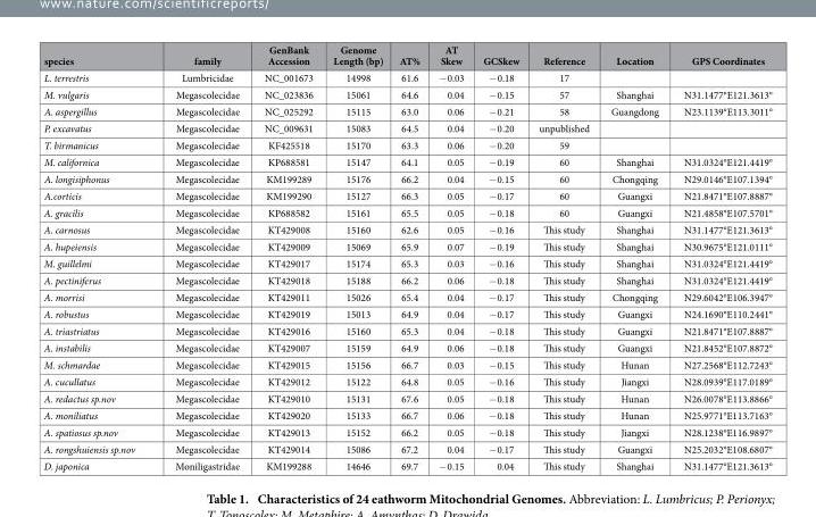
<table><thead><tr><td>species</td><td>family</td><td>GenBank Accession</td><td>Genome Length (bp)</td><td>AT%</td><td>AT Skew</td><td>GCSkew</td><td>Reference</td><td>Location</td><td>GPS Coordinates</td></tr></thead><tbody><tr><td>L. terrestris</td><td>Lumbricidae</td><td>NC_001673</td><td>14998</td><td>61.6</td><td>− 0.03</td><td>− 0.18</td><td>17</td><td></td><td></td></tr><tr><td>M. vulgaris</td><td>Megascolecidae</td><td>NC_023836</td><td>15061</td><td>64.6</td><td>0.04</td><td>− 0.15</td><td>57</td><td>Shanghai</td><td>N31.1477°E121.3613°</td></tr><tr><td>A. aspergillus</td><td>Megascolecidae</td><td>NC_025292</td><td>15115</td><td>63.0</td><td>0.06</td><td>− 0.21</td><td>58</td><td>Guangdong</td><td>N23.1139°E113.3011°</td></tr><tr><td>P. excavatus</td><td>Megascolecidae</td><td>NC_009631</td><td>15083</td><td>64.5</td><td>0.04</td><td>− 0.20</td><td>unpublished</td><td></td><td></td></tr><tr><td>T. birmanicus</td><td>Megascolecidae</td><td>KF425518</td><td>15170</td><td>63.3</td><td>0.06</td><td>− 0.20</td><td>59</td><td></td><td></td></tr><tr><td>M. californica</td><td>Megascolecidae</td><td>KP688581</td><td>15147</td><td>64.1</td><td>0.05</td><td>− 0.19</td><td>60</td><td>Shanghai</td><td>N31.0324°E121.4419°</td></tr><tr><td>A. longisiphonus</td><td>Megascolecidae</td><td>KM199289</td><td>15176</td><td>66.2</td><td>0.04</td><td>− 0.15</td><td>60</td><td>Chongqing</td><td>N29.0146°E107.1394°</td></tr><tr><td>A.corticis</td><td>Megascolecidae</td><td>KM199290</td><td>15127</td><td>66.3</td><td>0.05</td><td>− 0.17</td><td>60</td><td>Guangxi</td><td>N21.8471°E107.8887°</td></tr><tr><td>A. gracilis</td><td>Megascolecidae</td><td>KP688582</td><td>15161</td><td>65.5</td><td>0.05</td><td>− 0.18</td><td>60</td><td>Guangxi</td><td>N21.4858°E107.5701°</td></tr><tr><td>A. carnosus</td><td>Megascolecidae</td><td>KT429008</td><td>15160</td><td>62.6</td><td>0.05</td><td>− 0.16</td><td>This study</td><td>Shanghai</td><td>N31.1477°E121.3613°</td></tr><tr><td>A. hupeiensis</td><td>Megascolecidae</td><td>KT429009</td><td>15069</td><td>65.9</td><td>0.07</td><td>− 0.19</td><td>This study</td><td>Shanghai</td><td>N30.9675°E121.0111°</td></tr><tr><td>M. guillelmi</td><td>Megascolecidae</td><td>KT429017</td><td>15174</td><td>65.3</td><td>0.03</td><td>− 0.16</td><td>This study</td><td>Shanghai</td><td>N31.0324°E121.4419°</td></tr><tr><td>A. pectiniferus</td><td>Megascolecidae</td><td>KT429018</td><td>15188</td><td>66.2</td><td>0.06</td><td>− 0.18</td><td>This study</td><td>Shanghai</td><td>N31.0324°E121.4419°</td></tr><tr><td>A. morrisi</td><td>Megascolecidae</td><td>KT429011</td><td>15026</td><td>65.4</td><td>0.04</td><td>− 0.17</td><td>This study</td><td>Chongqing</td><td>N29.6042°E106.3947°</td></tr><tr><td>A. robustus</td><td>Megascolecidae</td><td>KT429019</td><td>15013</td><td>64.9</td><td>0.04</td><td>− 0.17</td><td>This study</td><td>Guangxi</td><td>N24.1690°E110.2441°</td></tr><tr><td>A. triastriatus</td><td>Megascolecidae</td><td>KT429016</td><td>15160</td><td>65.3</td><td>0.04</td><td>− 0.18</td><td>This study</td><td>Guangxi</td><td>N21.8471°E107.8887°</td></tr><tr><td>A. instabilis</td><td>Megascolecidae</td><td>KT429007</td><td>15159</td><td>64.9</td><td>0.06</td><td>− 0.18</td><td>This study</td><td>Guangxi</td><td>N21.8452°E107.8872°</td></tr><tr><td>M. schmardae</td><td>Megascolecidae</td><td>KT429015</td><td>15156</td><td>66.7</td><td>0.03</td><td>− 0.15</td><td>This study</td><td>Hunan</td><td>N27.2568°E112.7243°</td></tr><tr><td>A. cucullatus</td><td>Megascolecidae</td><td>KT429012</td><td>15122</td><td>64.8</td><td>0.05</td><td>− 0.16</td><td>This study</td><td>Jiangxi</td><td>N28.0939°E117.0189°</td></tr><tr><td>A. redactus sp.nov</td><td>Megascolecidae</td><td>KT429010</td><td>15131</td><td>67.6</td><td>0.05</td><td>− 0.18</td><td>This study</td><td>Hunan</td><td>N26.0078°E113.8866°</td></tr><tr><td>A. moniliatus</td><td>Megascolecidae</td><td>KT429020</td><td>15133</td><td>66.7</td><td>0.06</td><td>− 0.18</td><td>This study</td><td>Hunan</td><td>N25.9771°E113.7163°</td></tr><tr><td>A. spatiosus sp.nov</td><td>Megascolecidae</td><td>KT429013</td><td>15152</td><td>66.2</td><td>0.05</td><td>− 0.18</td><td>This study</td><td>Jiangxi</td><td>N28.1238°E116.9897°</td></tr><tr><td>A. rongshuiensis sp.nov</td><td>Megascolecidae</td><td>KT429014</td><td>15086</td><td>67.2</td><td>0.04</td><td>− 0.17</td><td>This study</td><td>Guangxi</td><td>N25.2032°E108.6807°</td></tr><tr><td>D. japonica</td><td>Moniligastridae</td><td>KM199288</td><td>14646</td><td>69.7</td><td>− 0.15</td><td>0.04</td><td>This study</td><td>Shanghai</td><td>N31.1477°E121.3613°</td></tr></tbody></table>